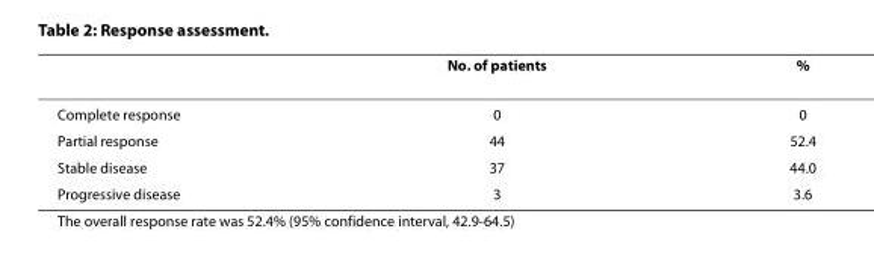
<table><thead><tr><td></td><td>No. of patients</td><td>%</td></tr></thead><tbody><tr><td>Complete response</td><td>0</td><td>0</td></tr><tr><td>Partial response</td><td>44</td><td>52.4</td></tr><tr><td>Stable disease</td><td>37</td><td>44.0</td></tr><tr><td>Progressive disease</td><td>3</td><td>3.6</td></tr></tbody></table>